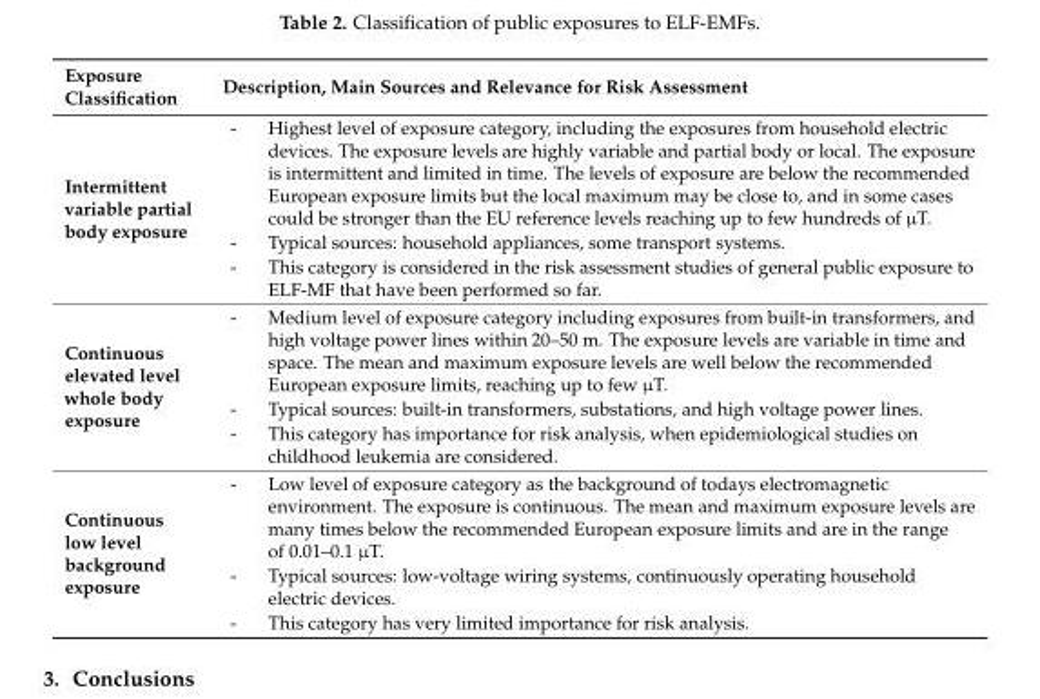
<table><thead><tr><td>Exposure Classification</td><td>Description, Main Sources and Relevance for Risk Assessment</td></tr></thead><tbody><tr><td>Intermittent variable partial body exposure</td><td>- Highest level of exposure category, including the exposures from household electric devices. The exposure levels are highly variable and partial body or local. The exposure is intermittent and limited in time. The levels of exposure are below the recommended European exposure limits but the local maximum may be close to, and in some cases could be stronger than the EU reference levels reaching up to few hundreds of µT. - Typical sources: household appliances, some transport systems. - This category is considered in the risk assessment studies of general public exposure to ELF-MF that have been performed so far.</td></tr><tr><td>Continuous elevated level whole body exposure</td><td>- Medium level of exposure category including exposures from built-in transformers, and high voltage power lines within 20–50 m. The exposure levels are variable in time and space. The mean and maximum exposure levels are well below the recommended European exposure limits, reaching up to few µT. - Typical sources: built-in transformers, substations, and high voltage power lines. - This category has importance for risk analysis, when epidemiological studies on childhood leukemia are considered.</td></tr><tr><td>Continuous low level background exposure</td><td>- Low level of exposure category as the background of todays electromagnetic environment. The exposure is continuous. The mean and maximum exposure levels are many times below the recommended European exposure limits and are in the range of 0.01–0.1 µT. - Typical sources: low-voltage wiring systems, continuously operating household electric devices. - This category has very limited importance for risk analysis.</td></tr></tbody></table>